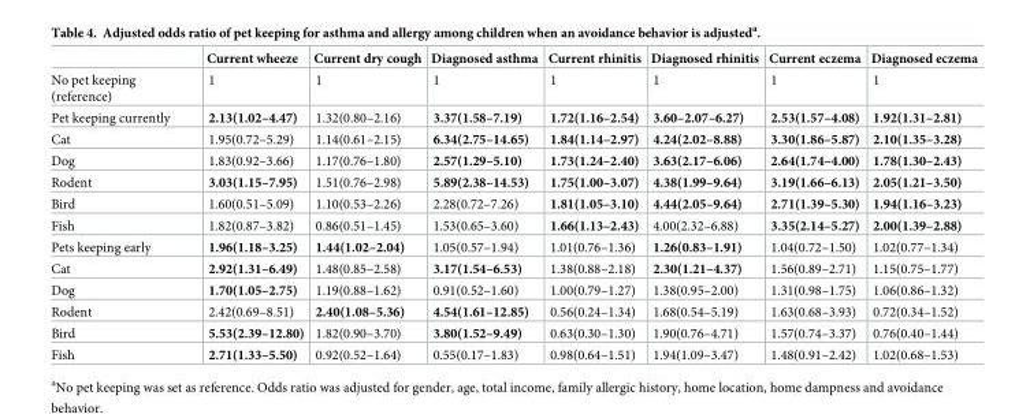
<table><thead><tr><td></td><td>Current wheeze</td><td>Current dry cough</td><td>Diagnosed asthma</td><td>Current rhinitis</td><td>Diagnosed rhinitis</td><td>Current eczema</td><td>Diagnosed eczema</td></tr></thead><tbody><tr><td>No pet keeping (reference)</td><td>1</td><td>1</td><td>1</td><td>1</td><td>1</td><td>1</td><td>1</td></tr><tr><td>Pet keeping currently</td><td>2.13(1.02–4.47)</td><td>1.32(0.80–2.16)</td><td>3.37(1.58–7.19)</td><td>1.72(1.16–2.54)</td><td>3.60–2.07–6.27)</td><td>2.53(1.57–4.08)</td><td>1.92(1.31–2.81)</td></tr><tr><td>Cat</td><td>1.95(0.72–5.29)</td><td>1.14(0.61–2.15)</td><td>6.34(2.75–14.65)</td><td>1.84(1.14–2.97)</td><td>4.24(2.02–8.88)</td><td>3.30(1.86–5.87)</td><td>2.10(1.35–3.28)</td></tr><tr><td>Dog</td><td>1.83(0.92–3.66)</td><td>1.17(0.76–1.80)</td><td>2.57(1.29–5.10)</td><td>1.73(1.24–2.40)</td><td>3.63(2.17–6.06)</td><td>2.64(1.74–4.00)</td><td>1.78(1.30–2.43)</td></tr><tr><td>Rodent</td><td>3.03(1.15–7.95)</td><td>1.51(0.76–2.98)</td><td>5.89(2.38–14.53)</td><td>1.75(1.00–3.07)</td><td>4.38(1.99–9.64)</td><td>3.19(1.66–6.13)</td><td>2.05(1.21–3.50)</td></tr><tr><td>Bird</td><td>1.60(0.51–5.09)</td><td>1.10(0.53–2.26)</td><td>2.28(0.72–7.26)</td><td>1.81(1.05–3.10)</td><td>4.44(2.05–9.64)</td><td>2.71(1.39–5.30)</td><td>1.94(1.16–3.23)</td></tr><tr><td>Fish</td><td>1.82(0.87–3.82)</td><td>0.86(0.51–1.45)</td><td>1.53(0.65–3.60)</td><td>1.66(1.13–2.43)</td><td>4.00(2.32–6.88)</td><td>3.35(2.14–5.27)</td><td>2.00(1.39–2.88)</td></tr><tr><td>Pets keeping early</td><td>1.96(1.18–3.25)</td><td>1.44(1.02–2.04)</td><td>1.05(0.57–1.94)</td><td>1.01(0.76–1.36)</td><td>1.26(0.83–1.91)</td><td>1.04(0.72–1.50)</td><td>1.02(0.77–1.34)</td></tr><tr><td>Cat</td><td>2.92(1.31–6.49)</td><td>1.48(0.85–2.58)</td><td>3.17(1.54–6.53)</td><td>1.38(0.88–2.18)</td><td>2.30(1.21–4.37)</td><td>1.56(0.89–2.71)</td><td>1.15(0.75–1.77)</td></tr><tr><td>Dog</td><td>1.70(1.05–2.75)</td><td>1.19(0.88–1.62)</td><td>0.91(0.52–1.60)</td><td>1.00(0.79–1.27)</td><td>1.38(0.95–2.00)</td><td>1.31(0.98–1.75)</td><td>1.06(0.86–1.32)</td></tr><tr><td>Rodent</td><td>2.42(0.69–8.51)</td><td>2.40(1.08–5.36)</td><td>4.54(1.61–12.85)</td><td>0.56(0.24–1.34)</td><td>1.68(0.54–5.19)</td><td>1.63(0.68–3.93)</td><td>0.72(0.34–1.52)</td></tr><tr><td>Bird</td><td>5.53(2.39–12.80)</td><td>1.82(0.90–3.70)</td><td>3.80(1.52–9.49)</td><td>0.63(0.30–1.30)</td><td>1.90(0.76–4.71)</td><td>1.57(0.74–3.37)</td><td>0.76(0.40–1.44)</td></tr><tr><td>Fish</td><td>2.71(1.33–5.50)</td><td>0.92(0.52–1.64)</td><td>0.55(0.17–1.83)</td><td>0.98(0.64–1.51)</td><td>1.94(1.09–3.47)</td><td>1.48(0.91–2.42)</td><td>1.02(0.68–1.53)</td></tr></tbody></table>